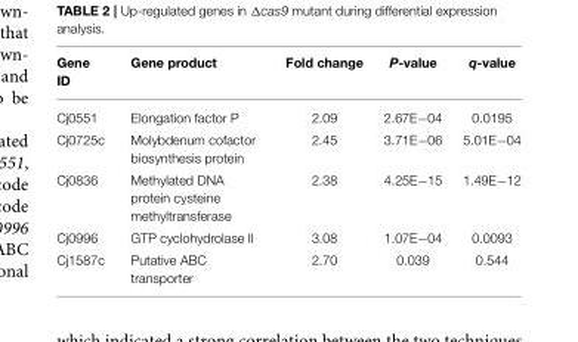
<table><thead><tr><td>Gene ID</td><td>Gene product</td><td>Fold change</td><td>P-value</td><td>q-value</td></tr></thead><tbody><tr><td>Cj0551</td><td>Elongation factor P</td><td>2.09</td><td>2.67E−04</td><td>0.0195</td></tr><tr><td>Cj0725c</td><td>Molybdenum cofactor biosynthesis protein</td><td>2.45</td><td>3.71E−06</td><td>5.01E−04</td></tr><tr><td>Cj0836</td><td>Methylated DNA protein cysteine methyltransferase</td><td>2.38</td><td>4.25E−15</td><td>1.49E−12</td></tr><tr><td>Cj0996</td><td>GTP cyclohydrolase II</td><td>3.08</td><td>1.07E−04</td><td>0.0093</td></tr><tr><td>Cj1587c</td><td>Putative ABC transporter</td><td>2.70</td><td>0.039</td><td>0.544</td></tr></tbody></table>